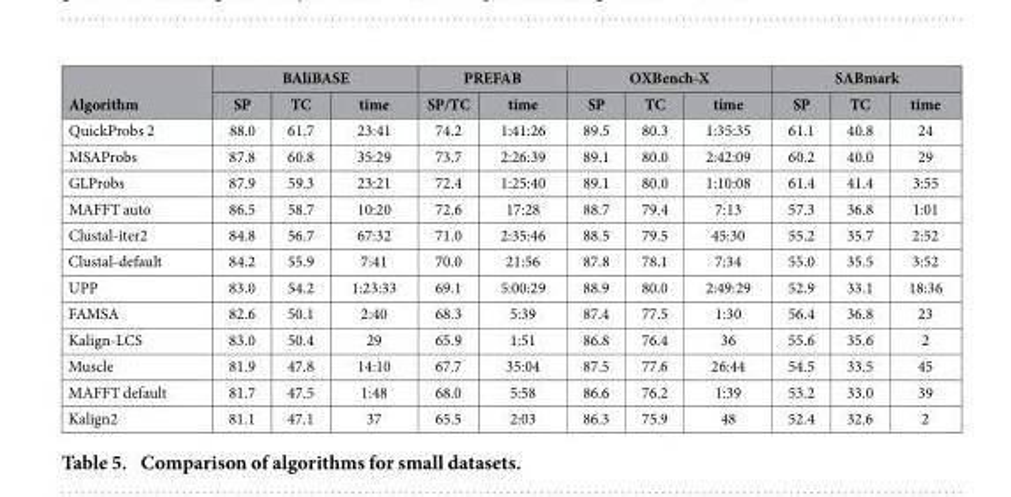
<table><thead><tr><td rowspan="2">Algorithm</td><td colspan="3">BAliBASE</td><td colspan="2">PREFAB</td><td colspan="3">OXBench-X</td><td colspan="3">SABmark</td></tr><tr><td>SP</td><td>TC</td><td>time</td><td>SP/TC</td><td>time</td><td>SP</td><td>TC</td><td>time</td><td>SP</td><td>TC</td><td>time</td></tr></thead><tbody><tr><td>QuickProbs 2</td><td>88.0</td><td>61.7</td><td>23:41</td><td>74.2</td><td>1:41:26</td><td>89.5</td><td>80.3</td><td>1:35:35</td><td>61.1</td><td>40.8</td><td>24</td></tr><tr><td>MSAProbs</td><td>87.8</td><td>60.8</td><td>35:29</td><td>73.7</td><td>2:26:39</td><td>89.1</td><td>80.0</td><td>2:42:09</td><td>60.2</td><td>40.0</td><td>29</td></tr><tr><td>GLProbs</td><td>87.9</td><td>59.3</td><td>23:21</td><td>72.4</td><td>1:25:40</td><td>89.1</td><td>80.0</td><td>1:10:08</td><td>61.4</td><td>41.4</td><td>3:55</td></tr><tr><td>MAFFT auto</td><td>86.5</td><td>58.7</td><td>10:20</td><td>72.6</td><td>17:28</td><td>88.7</td><td>79.4</td><td>7:13</td><td>57.3</td><td>36.8</td><td>1:01</td></tr><tr><td>Clustal-iter2</td><td>84.8</td><td>56.7</td><td>67:32</td><td>71.0</td><td>2:35:46</td><td>88.5</td><td>79.5</td><td>45:30</td><td>55.2</td><td>35.7</td><td>2:52</td></tr><tr><td>Clustal-default</td><td>84.2</td><td>55.9</td><td>7:41</td><td>70.0</td><td>21:56</td><td>87.8</td><td>78.1</td><td>7:34</td><td>55.0</td><td>35.5</td><td>3:52</td></tr><tr><td>UPP</td><td>83.0</td><td>54.2</td><td>1:23:33</td><td>69.1</td><td>5:00:29</td><td>88.9</td><td>80.0</td><td>2:49:29</td><td>52.9</td><td>33.1</td><td>18:36</td></tr><tr><td>FAMSA</td><td>82.6</td><td>50.1</td><td>2:40</td><td>68.3</td><td>5:39</td><td>87.4</td><td>77.5</td><td>1:30</td><td>56.4</td><td>36.8</td><td>23</td></tr><tr><td>Kalign-LCS</td><td>83.0</td><td>50.4</td><td>29</td><td>65.9</td><td>1:51</td><td>86.8</td><td>76.4</td><td>36</td><td>55.6</td><td>35.6</td><td>2</td></tr><tr><td>Muscle</td><td>81.9</td><td>47.8</td><td>14:10</td><td>67.7</td><td>35:04</td><td>87.5</td><td>77.6</td><td>26:44</td><td>54.5</td><td>33.5</td><td>45</td></tr><tr><td>MAFFT default</td><td>81.7</td><td>47.5</td><td>1:48</td><td>68.0</td><td>5:58</td><td>86.6</td><td>76.2</td><td>1:39</td><td>53.2</td><td>33.0</td><td>39</td></tr><tr><td>Kalign2</td><td>81.1</td><td>47.1</td><td>37</td><td>65.5</td><td>2:03</td><td>86.3</td><td>75.9</td><td>48</td><td>52.4</td><td>32.6</td><td>2</td></tr></tbody></table>